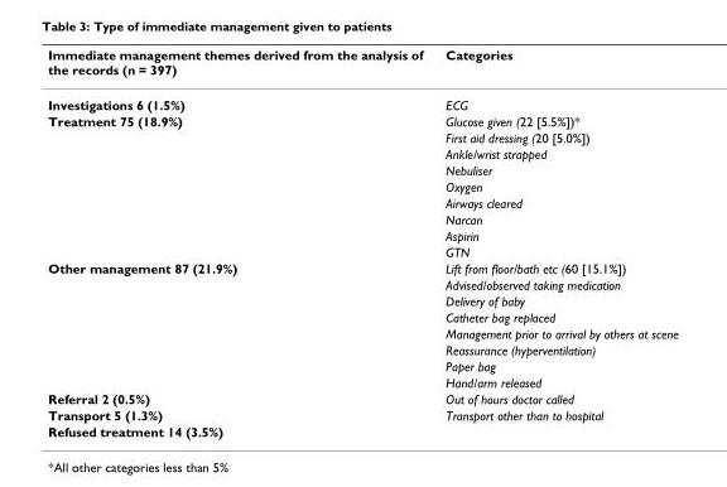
<table><thead><tr><td>Immediate management themes derived from the analysis of the records (n = 397)</td><td>Categories</td></tr></thead><tbody><tr><td>Investigations 6 (1.5%)</td><td>ECG</td></tr><tr><td rowspan="9">Treatment 75 (18.9%)</td><td>Glucose given (22 [5.5%])*</td></tr><tr><td>First aid dressing (20 [5.0%])</td></tr><tr><td>Ankle/wrist strapped</td></tr><tr><td>Nebuliser</td></tr><tr><td>Oxygen</td></tr><tr><td>Airways cleared</td></tr><tr><td>Narcan</td></tr><tr><td>Aspirin</td></tr><tr><td>GTN</td></tr><tr><td rowspan="8">Other management 87 (21.9%)</td><td>Lift from floor/bath etc (60 [15.1%])</td></tr><tr><td>Advised/observed taking medication</td></tr><tr><td>Delivery of baby</td></tr><tr><td>Catheter bag replaced</td></tr><tr><td>Management prior to arrival by others at scene</td></tr><tr><td>Reassurance (hyperventilation)</td></tr><tr><td>Paper bag</td></tr><tr><td>Hand/arm released</td></tr><tr><td>Referral 2 (0.5%)</td><td>Out of hours doctor called</td></tr><tr><td>Transport 5 (1.3%)</td><td>Transport other than to hospital</td></tr><tr><td>Refused treatment 14 (3.5%)</td><td></td></tr></tbody></table>